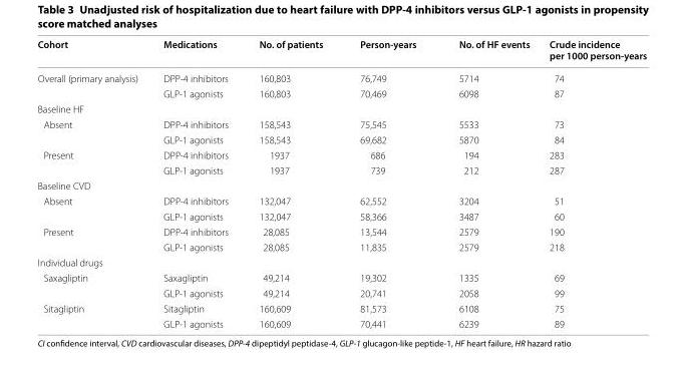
<table><thead><tr><td>Cohort</td><td>Medications</td><td>No. of patients</td><td>Person-years</td><td>No. of HF events</td><td>Crude incidence per 1000 person-years</td></tr></thead><tbody><tr><td rowspan="2">Overall (primary analysis)</td><td>DPP-4 inhibitors</td><td>160,803</td><td>76,749</td><td>5714</td><td>74</td></tr><tr><td>GLP-1 agonists</td><td>160,803</td><td>70,469</td><td>6098</td><td>87</td></tr><tr><td colspan="6">Baseline HF</td></tr><tr><td rowspan="2">Absent</td><td>DPP-4 inhibitors</td><td>158,543</td><td>75,545</td><td>5533</td><td>73</td></tr><tr><td>GLP-1 agonists</td><td>158,543</td><td>69,682</td><td>5870</td><td>84</td></tr><tr><td rowspan="2">Present</td><td>DPP-4 inhibitors</td><td>1937</td><td>686</td><td>194</td><td>283</td></tr><tr><td>GLP-1 agonists</td><td>1937</td><td>739</td><td>212</td><td>287</td></tr><tr><td colspan="6">Baseline CVD</td></tr><tr><td rowspan="2">Absent</td><td>DPP-4 inhibitors</td><td>132,047</td><td>62,552</td><td>3204</td><td>51</td></tr><tr><td>GLP-1 agonists</td><td>132,047</td><td>58,366</td><td>3487</td><td>60</td></tr><tr><td rowspan="2">Present</td><td>DPP-4 inhibitors</td><td>28,085</td><td>13,544</td><td>2579</td><td>190</td></tr><tr><td>GLP-1 agonists</td><td>28,085</td><td>11,835</td><td>2579</td><td>218</td></tr><tr><td colspan="6">Individual drugs</td></tr><tr><td rowspan="2">Saxagliptin</td><td>Saxagliptin</td><td>49,214</td><td>19,302</td><td>1335</td><td>69</td></tr><tr><td>GLP-1 agonists</td><td>49,214</td><td>20,741</td><td>2058</td><td>99</td></tr><tr><td rowspan="2">Sitagliptin</td><td>Sitagliptin</td><td>160,609</td><td>81,573</td><td>6108</td><td>75</td></tr><tr><td>GLP-1 agonists</td><td>160,609</td><td>70,441</td><td>6239</td><td>89</td></tr></tbody></table>